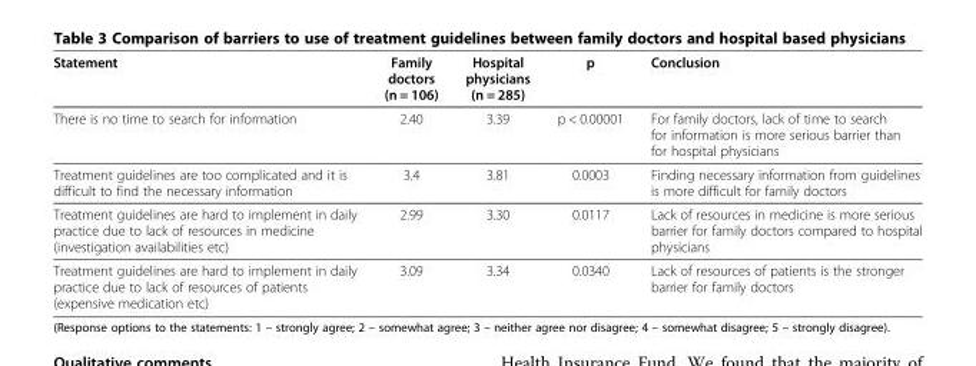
<table><thead><tr><td>Statement</td><td>Family doctors (n = 106)</td><td>Hospital physicians (n = 285)</td><td>p</td><td>Conclusion</td></tr></thead><tbody><tr><td>There is no time to search for information</td><td>2.40</td><td>3.39</td><td>p &lt; 0.00001</td><td>For family doctors, lack of time to search for information is more serious barrier than for hospital physicians</td></tr><tr><td>Treatment guidelines are too complicated and it is difficult to find the necessary information</td><td>3.4</td><td>3.81</td><td>0.0003</td><td>Finding necessary information from guidelines is more difficult for family doctors</td></tr><tr><td>Treatment guidelines are hard to implement in daily practice due to lack of resources in medicine (investigation availabilities etc)</td><td>2.99</td><td>3.30</td><td>0.0117</td><td>Lack of resources in medicine is more serious barrier for family doctors compared to hospital physicians</td></tr><tr><td>Treatment guidelines are hard to implement in daily practice due to lack of resources of patients (expensive medication etc)</td><td>3.09</td><td>3.34</td><td>0.0340</td><td>Lack of resources of patients is the stronger barrier for family doctors</td></tr></tbody></table>